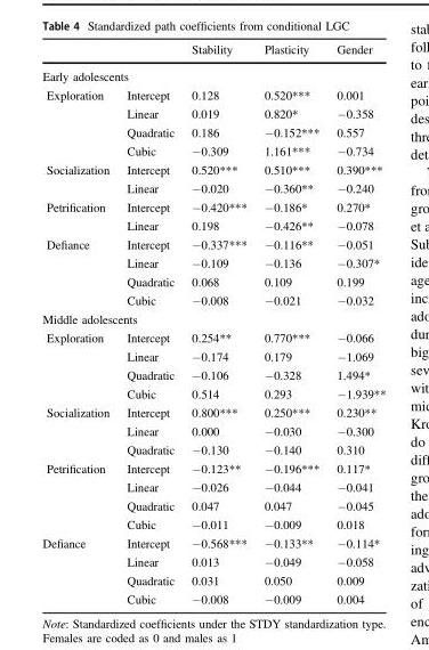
<table><thead><tr><td></td><td></td><td>Stability</td><td>Plasticity</td><td>Gender</td></tr></thead><tbody><tr><td colspan="5">Early adolescents</td></tr><tr><td rowspan="4">Exploration</td><td>Intercept</td><td>0.128</td><td>0.520***</td><td>0.001</td></tr><tr><td>Linear</td><td>0.019</td><td>0.820*</td><td>−0.358</td></tr><tr><td>Quadratic</td><td>0.186</td><td>−0.152***</td><td>0.557</td></tr><tr><td>Cubic</td><td>−0.309</td><td>1.161***</td><td>−0.734</td></tr><tr><td rowspan="2">Socialization</td><td>Intercept</td><td>0.520***</td><td>0.510***</td><td>0.390***</td></tr><tr><td>Linear</td><td>−0.020</td><td>−0.360**</td><td>−0.240</td></tr><tr><td rowspan="2">Petrification</td><td>Intercept</td><td>−0.420***</td><td>−0.186*</td><td>0.270*</td></tr><tr><td>Linear</td><td>0.198</td><td>−0.426**</td><td>−0.078</td></tr><tr><td rowspan="4">Defiance</td><td>Intercept</td><td>−0.337***</td><td>−0.116**</td><td>−0.051</td></tr><tr><td>Linear</td><td>−0.109</td><td>−0.136</td><td>−0.307*</td></tr><tr><td>Quadratic</td><td>0.068</td><td>0.109</td><td>0.199</td></tr><tr><td>Cubic</td><td>−0.008</td><td>−0.021</td><td>−0.032</td></tr><tr><td colspan="5">Middle adolescents</td></tr><tr><td rowspan="4">Exploration</td><td>Intercept</td><td>0.254**</td><td>0.770***</td><td>−0.066</td></tr><tr><td>Linear</td><td>−0.174</td><td>0.179</td><td>−1.069</td></tr><tr><td>Quadratic</td><td>−0.106</td><td>−0.328</td><td>1.494*</td></tr><tr><td>Cubic</td><td>0.514</td><td>0.293</td><td>−1.939**</td></tr><tr><td rowspan="3">Socialization</td><td>Intercept</td><td>0.800***</td><td>0.250***</td><td>0.230**</td></tr><tr><td>Linear</td><td>0.000</td><td>−0.030</td><td>−0.300</td></tr><tr><td>Quadratic</td><td>−0.130</td><td>−0.140</td><td>0.310</td></tr><tr><td rowspan="4">Petrification</td><td>Intercept</td><td>−0.123**</td><td>−0.196***</td><td>0.117*</td></tr><tr><td>Linear</td><td>−0.026</td><td>−0.044</td><td>−0.041</td></tr><tr><td>Quadratic</td><td>0.047</td><td>0.047</td><td>−0.045</td></tr><tr><td>Cubic</td><td>−0.011</td><td>−0.009</td><td>0.018</td></tr><tr><td rowspan="4">Defiance</td><td>Intercept</td><td>−0.568***</td><td>−0.133**</td><td>−0.114*</td></tr><tr><td>Linear</td><td>0.013</td><td>−0.049</td><td>−0.058</td></tr><tr><td>Quadratic</td><td>0.031</td><td>0.050</td><td>0.009</td></tr><tr><td>Cubic</td><td>−0.008</td><td>−0.009</td><td>0.004</td></tr></tbody></table>